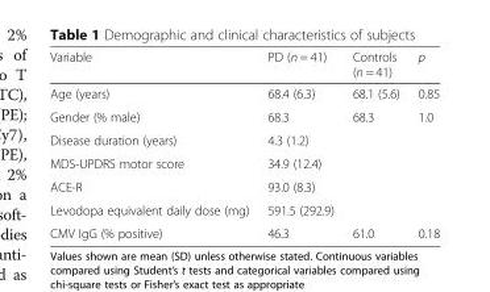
<table><thead><tr><td>Variable</td><td>PD (n = 41)</td><td>Controls (n = 41)</td><td>p</td></tr></thead><tbody><tr><td>Age (years)</td><td>68.4 (6.3)</td><td>68.1 (5.6)</td><td>0.85</td></tr><tr><td>Gender (% male)</td><td>68.3</td><td>68.3</td><td>1.0</td></tr><tr><td>Disease duration (years)</td><td>4.3 (1.2)</td><td></td><td></td></tr><tr><td>MDS-UPDRS motor score</td><td>34.9 (12.4)</td><td></td><td></td></tr><tr><td>ACE-R</td><td>93.0 (8.3)</td><td></td><td></td></tr><tr><td>Levodopa equivalent daily dose (mg)</td><td>591.5 (292.9)</td><td></td><td></td></tr><tr><td>CMV IgG (% positive)</td><td>46.3</td><td>61.0</td><td>0.18</td></tr></tbody></table>